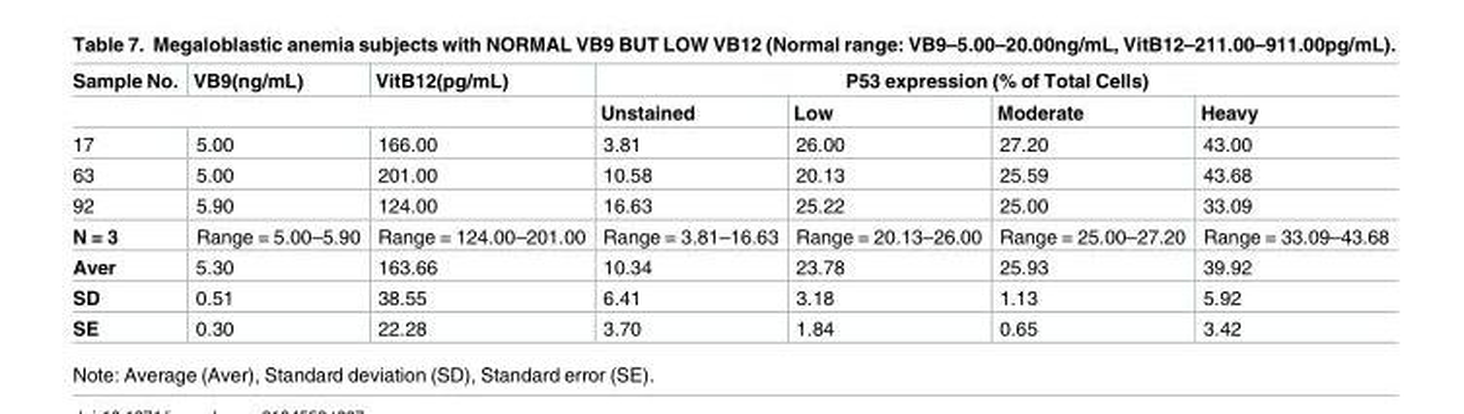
<table><thead><tr><td rowspan="2">Sample No.</td><td rowspan="2">VB9(ng/mL)</td><td rowspan="2">VitB12(pg/mL)</td><td colspan="4">P53 expression (% of Total Cells)</td></tr><tr><td>Unstained</td><td>Low</td><td>Moderate</td><td>Heavy</td></tr></thead><tbody><tr><td>17</td><td>5.00</td><td>166.00</td><td>3.81</td><td>26.00</td><td>27.20</td><td>43.00</td></tr><tr><td>63</td><td>5.00</td><td>201.00</td><td>10.58</td><td>20.13</td><td>25.59</td><td>43.68</td></tr><tr><td>92</td><td>5.90</td><td>124.00</td><td>16.63</td><td>25.22</td><td>25.00</td><td>33.09</td></tr><tr><td>N = 3</td><td>Range = 5.00–5.90</td><td>Range = 124.00–201.00</td><td>Range = 3.81–16.63</td><td>Range = 20.13–26.00</td><td>Range = 25.00–27.20</td><td>Range = 33.09–43.68</td></tr><tr><td>Aver</td><td>5.30</td><td>163.66</td><td>10.34</td><td>23.78</td><td>25.93</td><td>39.92</td></tr><tr><td>SD</td><td>0.51</td><td>38.55</td><td>6.41</td><td>3.18</td><td>1.13</td><td>5.92</td></tr><tr><td>SE</td><td>0.30</td><td>22.28</td><td>3.70</td><td>1.84</td><td>0.65</td><td>3.42</td></tr></tbody></table>